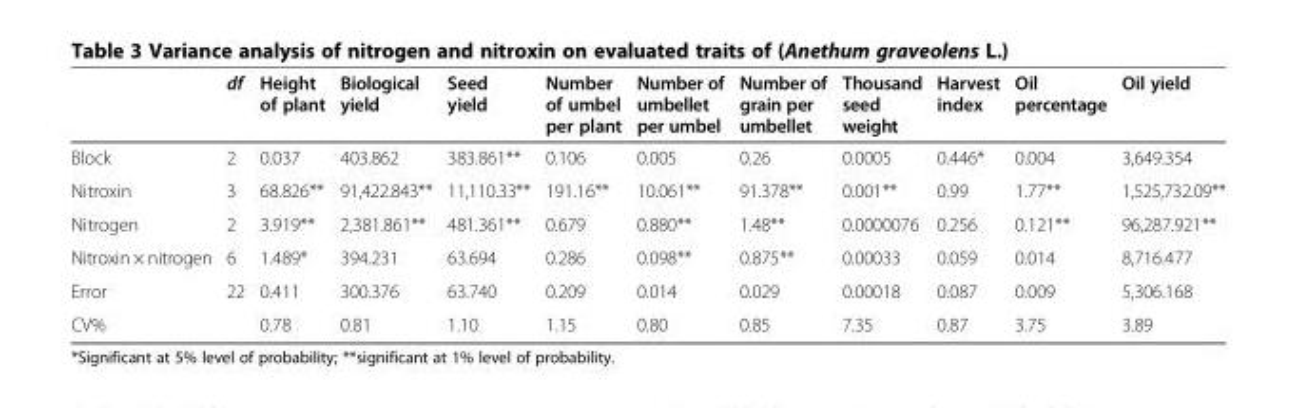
<table><thead><tr><td></td><td>df</td><td>Height of plant</td><td>Biological yield</td><td>Seed yield</td><td>Number of umbel per plant</td><td>Number of umbellet per umbel</td><td>Number of grain per umbellet</td><td>Thousand seed weight</td><td>Harvest index</td><td>Oil percentage</td><td>Oil yield</td></tr></thead><tbody><tr><td>Block</td><td>2</td><td>0.037</td><td>403.862</td><td>383.861**</td><td>0.106</td><td>0.005</td><td>0.26</td><td>0.0005</td><td>0.446*</td><td>0.004</td><td>3,649.354</td></tr><tr><td>Nitroxin</td><td>3</td><td>68.826**</td><td>91,422.843**</td><td>11,110.33**</td><td>191.16**</td><td>10.061**</td><td>91.378**</td><td>0.001**</td><td>0.99</td><td>1.77**</td><td>1,525,732.09**</td></tr><tr><td>Nitrogen</td><td>2</td><td>3.919**</td><td>2,381.861**</td><td>481.361**</td><td>0.679</td><td>0.880**</td><td>1.48**</td><td>0.0000076</td><td>0.256</td><td>0.121**</td><td>96,287.921**</td></tr><tr><td>Nitroxin × nitrogen</td><td>6</td><td>1.489*</td><td>394.231</td><td>63.694</td><td>0.286</td><td>0.098**</td><td>0.875**</td><td>0.00033</td><td>0.059</td><td>0.014</td><td>8,716.477</td></tr><tr><td>Error</td><td>22</td><td>0.411</td><td>300.376</td><td>63.740</td><td>0.209</td><td>0.014</td><td>0.029</td><td>0.00018</td><td>0.087</td><td>0.009</td><td>5,306.168</td></tr><tr><td>CV%</td><td></td><td>0.78</td><td>0.81</td><td>1.10</td><td>1.15</td><td>0.80</td><td>0.85</td><td>7.35</td><td>0.87</td><td>3.75</td><td>3.89</td></tr></tbody></table>